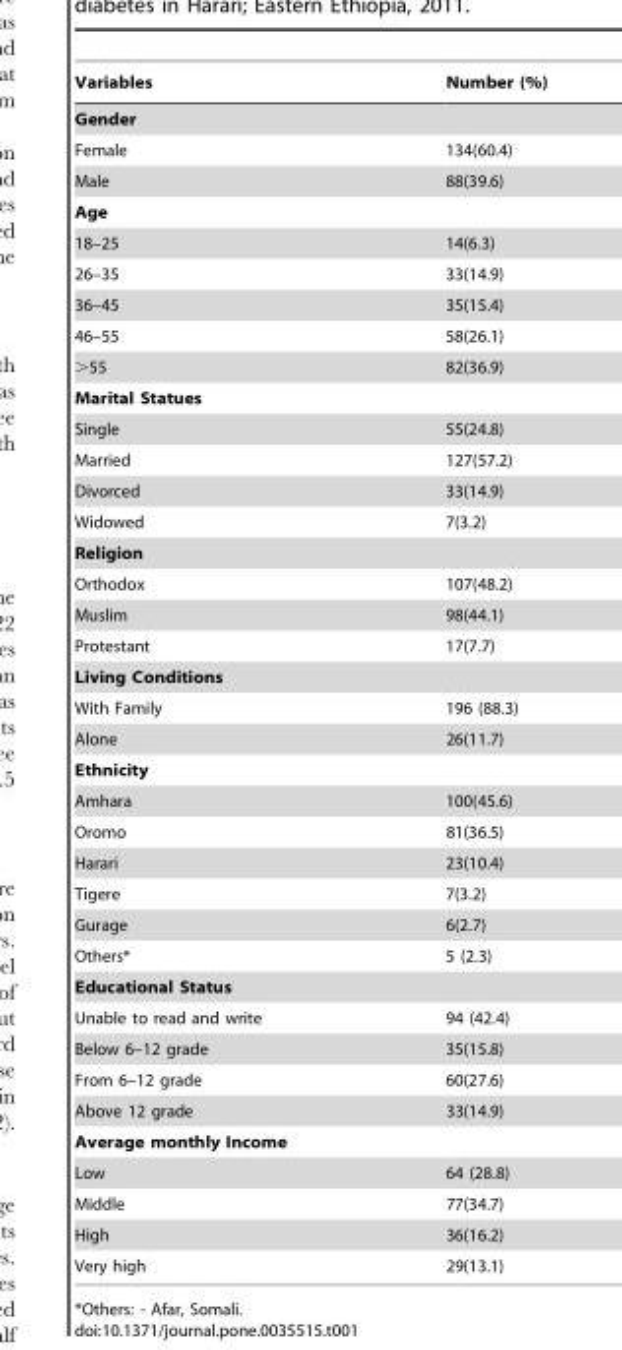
<table><thead><tr><td>Variables</td><td>Number (%)</td></tr></thead><tbody><tr><td colspan="2">Gender</td></tr><tr><td>Female</td><td>134(60.4)</td></tr><tr><td>Male</td><td>88(39.6)</td></tr><tr><td colspan="2">Age</td></tr><tr><td>18–25</td><td>14(6.3)</td></tr><tr><td>26–35</td><td>33(14.9)</td></tr><tr><td>36–45</td><td>35(15.4)</td></tr><tr><td>46–55</td><td>58(26.1)</td></tr><tr><td>&gt;55</td><td>82(36.9)</td></tr><tr><td colspan="2">Marital Statues</td></tr><tr><td>Single</td><td>55(24.8)</td></tr><tr><td>Married</td><td>127(57.2)</td></tr><tr><td>Divorced</td><td>33(14.9)</td></tr><tr><td>Widowed</td><td>7(3.2)</td></tr><tr><td colspan="2">Religion</td></tr><tr><td>Orthodox</td><td>107(48.2)</td></tr><tr><td>Muslim</td><td>98(44.1)</td></tr><tr><td>Protestant</td><td>17(7.7)</td></tr><tr><td colspan="2">Living Conditions</td></tr><tr><td>With Family</td><td>196 (88.3)</td></tr><tr><td>Alone</td><td>26(11.7)</td></tr><tr><td colspan="2">Ethnicity</td></tr><tr><td>Amhara</td><td>100(45.6)</td></tr><tr><td>Oromo</td><td>81(36.5)</td></tr><tr><td>Harari</td><td>23(10.4)</td></tr><tr><td>Tigere</td><td>7(3.2)</td></tr><tr><td>Gurage</td><td>6(2.7)</td></tr><tr><td>Others*</td><td>5 (2.3)</td></tr><tr><td colspan="2">Educational Status</td></tr><tr><td>Unable to read and write</td><td>94 (42.4)</td></tr><tr><td>Below 6–12 grade</td><td>35(15.8)</td></tr><tr><td>From 6–12 grade</td><td>60(27.6)</td></tr><tr><td>Above 12 grade</td><td>33(14.9)</td></tr><tr><td colspan="2">Average monthly Income</td></tr><tr><td>Low</td><td>64 (28.8)</td></tr><tr><td>Middle</td><td>77(34.7)</td></tr><tr><td>High</td><td>36(16.2)</td></tr><tr><td>Very high</td><td>29(13.1)</td></tr></tbody></table>